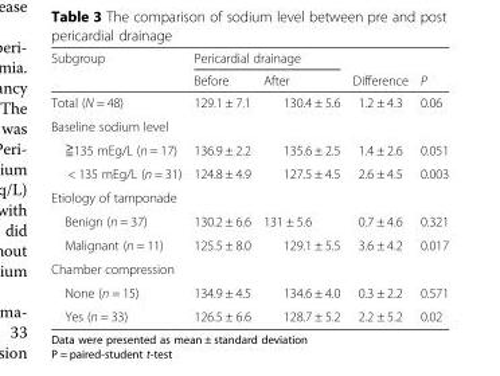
<table><thead><tr><td rowspan="2">Subgroup</td><td colspan="2">Pericardial drainage</td><td rowspan="2">Difference</td><td rowspan="2">P</td></tr><tr><td>Before</td><td>After</td></tr></thead><tbody><tr><td>Total (N = 48)</td><td>129.1 ± 7.1</td><td>130.4 ± 5.6</td><td>1.2 ± 4.3</td><td>0.06</td></tr><tr><td colspan="5">Baseline sodium level</td></tr><tr><td>≧135 mEg/L (n = 17)</td><td>136.9 ± 2.2</td><td>135.6 ± 2.5</td><td>1.4 ± 2.6</td><td>0.051</td></tr><tr><td>&lt; 135 mEg/L (n = 31)</td><td>124.8 ± 4.9</td><td>127.5 ± 4.5</td><td>2.6 ± 4.5</td><td>0.003</td></tr><tr><td colspan="5">Etiology of tamponade</td></tr><tr><td>Benign (n = 37)</td><td>130.2 ± 6.6</td><td>131 ± 5.6</td><td>0.7 ± 4.6</td><td>0.321</td></tr><tr><td>Malignant (n = 11)</td><td>125.5 ± 8.0</td><td>129.1 ± 5.5</td><td>3.6 ± 4.2</td><td>0.017</td></tr><tr><td colspan="5">Chamber compression</td></tr><tr><td>None (n = 15)</td><td>134.9 ± 4.5</td><td>134.6 ± 4.0</td><td>0.3 ± 2.2</td><td>0.571</td></tr><tr><td>Yes (n = 33)</td><td>126.5 ± 6.6</td><td>128.7 ± 5.2</td><td>2.2 ± 5.2</td><td>0.02</td></tr></tbody></table>